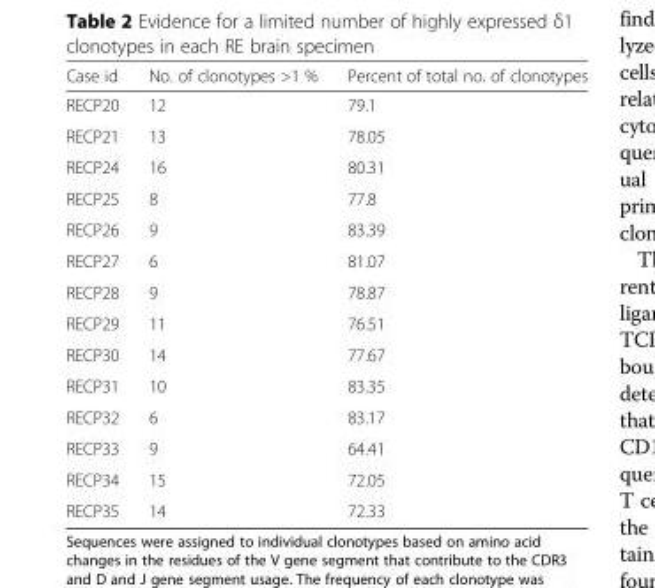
<table><thead><tr><td>Case id</td><td>No. of clonotypes &gt;1 %</td><td>Percent of total no. of clonotypes</td></tr></thead><tbody><tr><td>RECP20</td><td>12</td><td>79.1</td></tr><tr><td>RECP21</td><td>13</td><td>78.05</td></tr><tr><td>RECP24</td><td>16</td><td>80.31</td></tr><tr><td>RECP25</td><td>8</td><td>77.8</td></tr><tr><td>RECP26</td><td>9</td><td>83.39</td></tr><tr><td>RECP27</td><td>6</td><td>81.07</td></tr><tr><td>RECP28</td><td>9</td><td>78.87</td></tr><tr><td>RECP29</td><td>11</td><td>76.51</td></tr><tr><td>RECP30</td><td>14</td><td>77.67</td></tr><tr><td>RECP31</td><td>10</td><td>83.35</td></tr><tr><td>RECP32</td><td>6</td><td>83.17</td></tr><tr><td>RECP33</td><td>9</td><td>64.41</td></tr><tr><td>RECP34</td><td>15</td><td>72.05</td></tr><tr><td>RECP35</td><td>14</td><td>72.33</td></tr></tbody></table>